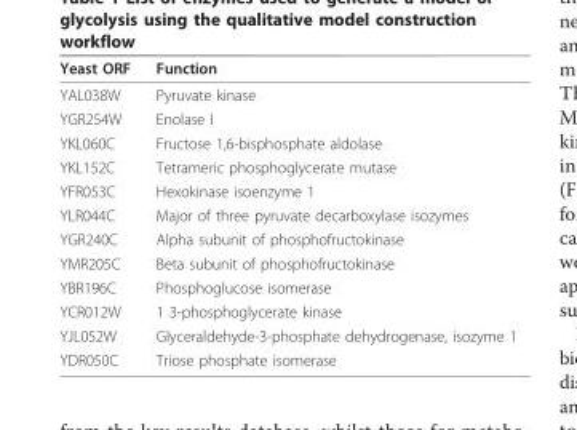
<table><thead><tr><td>Yeast ORF</td><td>Function</td></tr></thead><tbody><tr><td>YAL038W</td><td>Pyruvate kinase</td></tr><tr><td>YGR254W</td><td>Enolase I</td></tr><tr><td>YKL060C</td><td>Fructose 1,6-bisphosphate aldolase</td></tr><tr><td>YKL152C</td><td>Tetrameric phosphoglycerate mutase</td></tr><tr><td>YFR053C</td><td>Hexokinase isoenzyme 1</td></tr><tr><td>YLR044C</td><td>Major of three pyruvate decarboxylase isozymes</td></tr><tr><td>YGR240C</td><td>Alpha subunit of phosphofructokinase</td></tr><tr><td>YMR205C</td><td>Beta subunit of phosphofructokinase</td></tr><tr><td>YBR196C</td><td>Phosphoglucose isomerase</td></tr><tr><td>YCR012W</td><td>1 3-phosphoglycerate kinase</td></tr><tr><td>YJL052W</td><td>Glyceraldehyde-3-phosphate dehydrogenase, isozyme 1</td></tr><tr><td>YDR050C</td><td>Triose phosphate isomerase</td></tr></tbody></table>